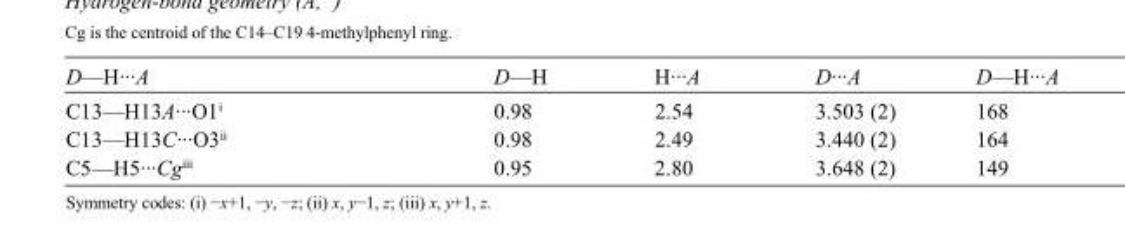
<table><tbody><tr><td>D—H···A</td><td>D—H</td><td>H···A</td><td>D···A</td><td>D—H···A</td></tr><tr><td>C13—H13A···O1<sup>i</sup></td><td>0.98</td><td>2.54</td><td>3.503 (2)</td><td>168</td></tr><tr><td>C13—H13C···O3<sup>ii</sup></td><td>0.98</td><td>2.49</td><td>3.440 (2)</td><td>164</td></tr><tr><td>C5—H5···Cg<sup>iii</sup></td><td>0.95</td><td>2.80</td><td>3.648 (2)</td><td>149</td></tr></tbody></table>